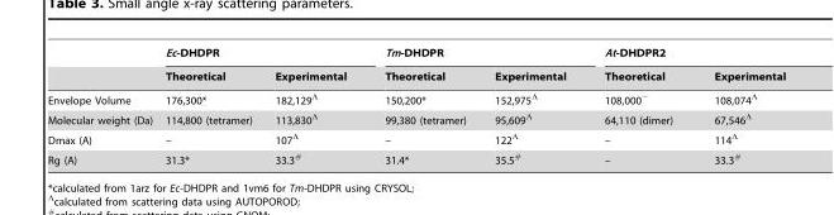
<table><thead><tr><td rowspan="2"></td><td colspan="2">Ec-DHDPR</td><td colspan="2">Tm-DHDPR</td><td colspan="2">At-DHDPR2</td></tr><tr><td>Theoretical</td><td>Experimental</td><td>Theoretical</td><td>Experimental</td><td>Theoretical</td><td>Experimental</td></tr></thead><tbody><tr><td>Envelope Volume</td><td>176,300*</td><td>182,129Λ</td><td>150,200*</td><td>152,975Λ</td><td>108,000∼</td><td>108,074Λ</td></tr><tr><td>Molecular weight (Da)</td><td>114,800 (tetramer)</td><td>113,830Λ</td><td>99,380 (tetramer)</td><td>95,609Λ</td><td>64,110 (dimer)</td><td>67,546Λ</td></tr><tr><td>Dmax (A)</td><td>–</td><td>107Λ</td><td>–</td><td>122Λ</td><td>–</td><td>114Λ</td></tr><tr><td>Rg (A)</td><td>31.3*</td><td>33.3#</td><td>31.4*</td><td>35.5#</td><td>–</td><td>33.3#</td></tr></tbody></table>